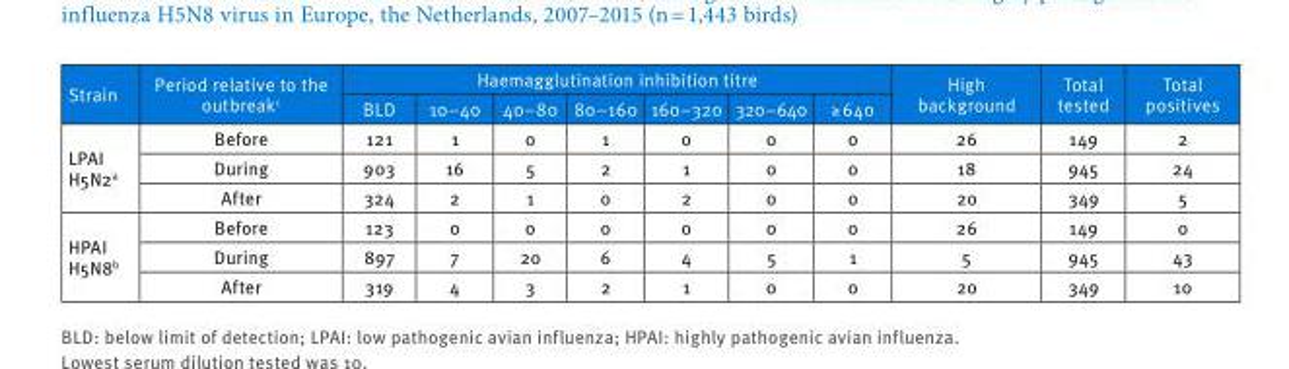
<table><thead><tr><td rowspan="2">Strain</td><td rowspan="2">Period relative to the outbreak<sup>c</sup></td><td colspan="7">Haemagglutination inhibition titre</td><td rowspan="2">High background</td><td rowspan="2">Total tested</td><td rowspan="2">Total positives</td></tr><tr><td>BLD</td><td>10–40</td><td>40–80</td><td>80–160</td><td>160–320</td><td>320–640</td><td>≥ 640</td></tr></thead><tbody><tr><td rowspan="3">LPAI H5N2<sup>a</sup></td><td>Before</td><td>121</td><td>1</td><td>0</td><td>1</td><td>0</td><td>0</td><td>0</td><td>26</td><td>149</td><td>2</td></tr><tr><td>During</td><td>903</td><td>16</td><td>5</td><td>2</td><td>1</td><td>0</td><td>0</td><td>18</td><td>945</td><td>24</td></tr><tr><td>After</td><td>324</td><td>2</td><td>1</td><td>0</td><td>2</td><td>0</td><td>0</td><td>20</td><td>349</td><td>5</td></tr><tr><td rowspan="3">HPAI H5N8<sup>b</sup></td><td>Before</td><td>123</td><td>0</td><td>0</td><td>0</td><td>0</td><td>0</td><td>0</td><td>26</td><td>149</td><td>0</td></tr><tr><td>During</td><td>897</td><td>7</td><td>20</td><td>6</td><td>4</td><td>5</td><td>1</td><td>5</td><td>945</td><td>43</td></tr><tr><td>After</td><td>319</td><td>4</td><td>3</td><td>2</td><td>1</td><td>0</td><td>0</td><td>20</td><td>349</td><td>10</td></tr></tbody></table>